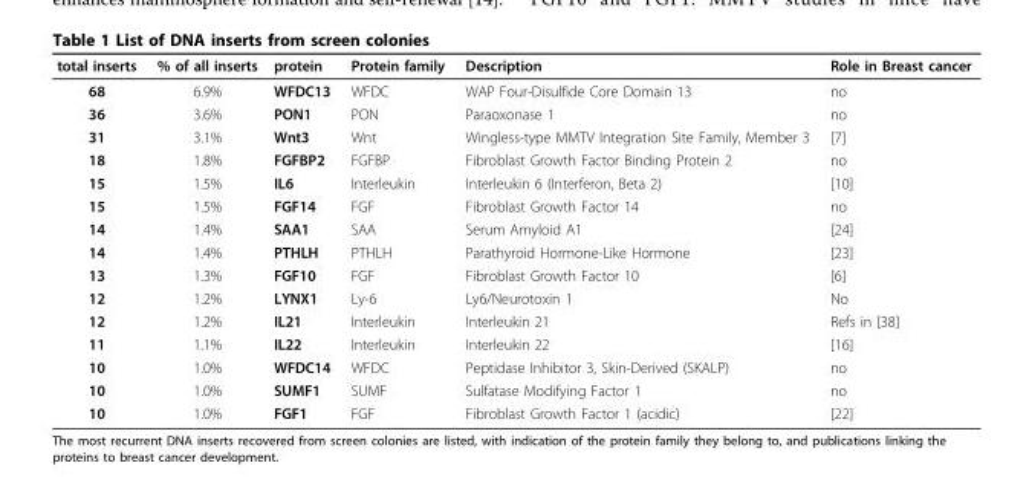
<table><tbody><tr><td>total inserts</td><td>% of all inserts</td><td>protein</td><td>Protein family</td><td>Description</td><td>Role in Breast cancer</td></tr><tr><td>68</td><td>6.9%</td><td>WFDC13</td><td>WFDC</td><td>WAP Four-Disulfide Core Domain 13</td><td>no</td></tr><tr><td>36</td><td>3.6%</td><td>PON1</td><td>PON</td><td>Paraoxonase 1</td><td>no</td></tr><tr><td>31</td><td>3.1%</td><td>Wnt3</td><td>Wnt</td><td>Wingless-type MMTV Integration Site Family, Member 3</td><td>[7]</td></tr><tr><td>18</td><td>1.8%</td><td>FGFBP2</td><td>FGFBP</td><td>Fibroblast Growth Factor Binding Protein 2</td><td>no</td></tr><tr><td>15</td><td>1.5%</td><td>IL6</td><td>Interleukin</td><td>Interleukin 6 (Interferon, Beta 2)</td><td>[10]</td></tr><tr><td>15</td><td>1.5%</td><td>FGF14</td><td>FGF</td><td>Fibroblast Growth Factor 14</td><td>no</td></tr><tr><td>14</td><td>1.4%</td><td>SAA1</td><td>SAA</td><td>Serum Amyloid A1</td><td>[24]</td></tr><tr><td>14</td><td>1.4%</td><td>PTHLH</td><td>PTHLH</td><td>Parathyroid Hormone-Like Hormone</td><td>[23]</td></tr><tr><td>13</td><td>1.3%</td><td>FGF10</td><td>FGF</td><td>Fibroblast Growth Factor 10</td><td>[6]</td></tr><tr><td>12</td><td>1.2%</td><td>LYNX1</td><td>Ly-6</td><td>Ly6/Neurotoxin 1</td><td>No</td></tr><tr><td>12</td><td>1.2%</td><td>IL21</td><td>Interleukin</td><td>Interleukin 21</td><td>Refs in [38]</td></tr><tr><td>11</td><td>1.1%</td><td>IL22</td><td>Interleukin</td><td>Interleukin 22</td><td>[16]</td></tr><tr><td>10</td><td>1.0%</td><td>WFDC14</td><td>WFDC</td><td>Peptidase Inhibitor 3, Skin-Derived (SKALP)</td><td>no</td></tr><tr><td>10</td><td>1.0%</td><td>SUMF1</td><td>SUMF</td><td>Sulfatase Modifying Factor 1</td><td>no</td></tr><tr><td>10</td><td>1.0%</td><td>FGF1</td><td>FGF</td><td>Fibroblast Growth Factor 1 (acidic)</td><td>[22]</td></tr></tbody></table>